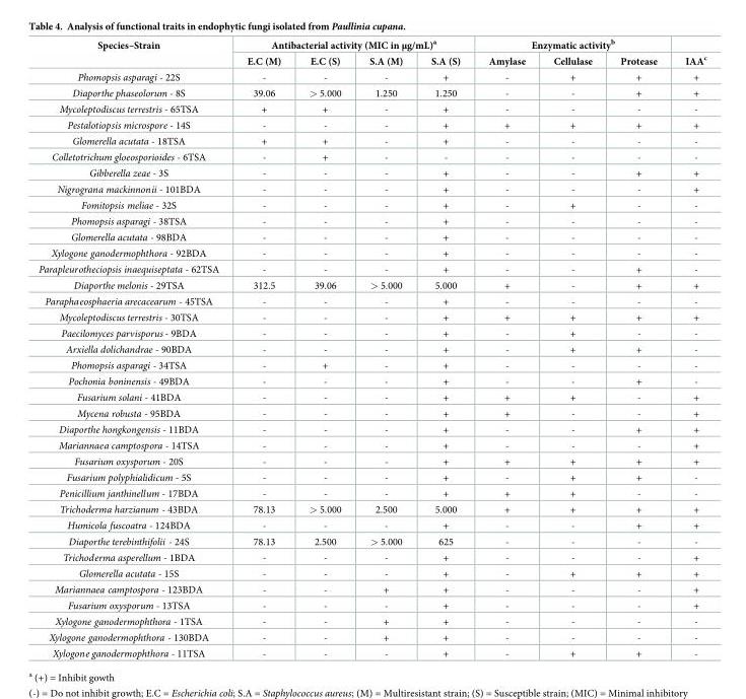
<table><thead><tr><td rowspan="2">Species–Strain</td><td colspan="4">Antibacterial activity (MIC in μg/mL)<sup>a</sup></td><td colspan="3">Enzymatic activity<sup>b</sup></td><td rowspan="2">IAA<sup>c</sup></td></tr><tr><td>E.C (M)</td><td>E.C (S)</td><td>S.A (M)</td><td>S.A (S)</td><td>Amylase</td><td>Cellulase</td><td>Protease</td></tr></thead><tbody><tr><td>Phomopsis asparagi - 22S</td><td>-</td><td>-</td><td>-</td><td>+</td><td>-</td><td>+</td><td>+</td><td>+</td></tr><tr><td>Diaporthe phaseolorum - 8S</td><td>39.06</td><td>&gt; 5.000</td><td>1.250</td><td>1.250</td><td>-</td><td>-</td><td>+</td><td>+</td></tr><tr><td>Mycoleptodiscus terrestris - 65TSA</td><td>+</td><td>+</td><td>-</td><td>+</td><td>-</td><td>-</td><td>-</td><td>-</td></tr><tr><td>Pestalotiopsis microspore - 14S</td><td>-</td><td>-</td><td>-</td><td>+</td><td>+</td><td>+</td><td>+</td><td>+</td></tr><tr><td>Glomerella acutata - 18TSA</td><td>+</td><td>+</td><td>-</td><td>+</td><td>-</td><td>-</td><td>-</td><td>-</td></tr><tr><td>Colletotrichum gloeosporioides - 6TSA</td><td>-</td><td>+</td><td>-</td><td>-</td><td>-</td><td>-</td><td>-</td><td>-</td></tr><tr><td>Gibberella zeae - 3S</td><td>-</td><td>-</td><td>-</td><td>+</td><td>-</td><td>-</td><td>+</td><td>+</td></tr><tr><td>Nigrograna mackinnonii - 101BDA</td><td>-</td><td>-</td><td>-</td><td>+</td><td>-</td><td>-</td><td>-</td><td>+</td></tr><tr><td>Fomitopsis meliae - 32S</td><td>-</td><td>-</td><td>-</td><td>+</td><td>-</td><td>+</td><td>-</td><td>-</td></tr><tr><td>Phomopsis asparagi - 38TSA</td><td>-</td><td>-</td><td>-</td><td>+</td><td>-</td><td>-</td><td>-</td><td>-</td></tr><tr><td>Glomerella acutata - 98BDA</td><td>-</td><td>-</td><td>-</td><td>+</td><td>-</td><td>-</td><td>-</td><td>-</td></tr><tr><td>Xylogone ganodermophthora - 92BDA</td><td>-</td><td>-</td><td>-</td><td>+</td><td>-</td><td>-</td><td>-</td><td>-</td></tr><tr><td>Parapleurotheciopsis inaequiseptata - 62TSA</td><td>-</td><td>-</td><td>-</td><td>+</td><td>-</td><td>-</td><td>+</td><td>-</td></tr><tr><td>Diaporthe melonis - 29TSA</td><td>312.5</td><td>39.06</td><td>&gt; 5.000</td><td>5.000</td><td>+</td><td>-</td><td>+</td><td>+</td></tr><tr><td>Paraphaeosphaeria arecacearum - 45TSA</td><td>-</td><td>-</td><td>-</td><td>+</td><td>-</td><td>-</td><td>-</td><td>-</td></tr><tr><td>Mycoleptodiscus terrestris - 30TSA</td><td>-</td><td>-</td><td>-</td><td>+</td><td>+</td><td>+</td><td>+</td><td>+</td></tr><tr><td>Paecilomyces parvisporus - 9BDA</td><td>-</td><td>-</td><td>-</td><td>+</td><td>-</td><td>+</td><td>-</td><td>-</td></tr><tr><td>Arxiella dolichandrae - 90BDA</td><td>-</td><td>-</td><td>-</td><td>+</td><td>-</td><td>+</td><td>+</td><td>-</td></tr><tr><td>Phomopsis asparagi - 34TSA</td><td>-</td><td>+</td><td>-</td><td>+</td><td>-</td><td>-</td><td>-</td><td>-</td></tr><tr><td>Pochonia boninensis - 49BDA</td><td>-</td><td>-</td><td>-</td><td>+</td><td>-</td><td>-</td><td>+</td><td>-</td></tr><tr><td>Fusarium solani - 41BDA</td><td>-</td><td>-</td><td>-</td><td>+</td><td>+</td><td>+</td><td>-</td><td>+</td></tr><tr><td>Mycena robusta - 95BDA</td><td>-</td><td>-</td><td>-</td><td>+</td><td>+</td><td>-</td><td>-</td><td>+</td></tr><tr><td>Diaporthe hongkongensis - 11BDA</td><td>-</td><td>-</td><td>-</td><td>+</td><td>-</td><td>-</td><td>+</td><td>+</td></tr><tr><td>Mariannaea camptospora - 14TSA</td><td>-</td><td>-</td><td>-</td><td>+</td><td>-</td><td>-</td><td>-</td><td>+</td></tr><tr><td>Fusarium oxysporum - 20S</td><td>-</td><td>-</td><td>-</td><td>+</td><td>+</td><td>+</td><td>+</td><td>+</td></tr><tr><td>Fusarium polyphialidicum - 5S</td><td>-</td><td>-</td><td>-</td><td>+</td><td>-</td><td>+</td><td>+</td><td>-</td></tr><tr><td>Penicillium janthinellum - 17BDA</td><td>-</td><td>-</td><td>-</td><td>+</td><td>+</td><td>+</td><td>-</td><td>-</td></tr><tr><td>Trichoderma harzianum - 43BDA</td><td>78.13</td><td>&gt; 5.000</td><td>2.500</td><td>5.000</td><td>+</td><td>+</td><td>+</td><td>+</td></tr><tr><td>Humicola fuscoatra - 124BDA</td><td>-</td><td>-</td><td>-</td><td>+</td><td>-</td><td>-</td><td>+</td><td>+</td></tr><tr><td>Diaporthe terebinthifolii - 24S</td><td>78.13</td><td>2.500</td><td>&gt; 5.000</td><td>625</td><td>-</td><td>-</td><td>-</td><td>-</td></tr><tr><td>Trichoderma asperellum - 1BDA</td><td>-</td><td>-</td><td>-</td><td>+</td><td>-</td><td>-</td><td>-</td><td>+</td></tr><tr><td>Glomerella acutata - 15S</td><td>-</td><td>-</td><td>-</td><td>+</td><td>-</td><td>+</td><td>+</td><td>+</td></tr><tr><td>Mariannaea camptospora - 123BDA</td><td>-</td><td>-</td><td>+</td><td>+</td><td>-</td><td>-</td><td>-</td><td>+</td></tr><tr><td>Fusarium oxysporum - 13TSA</td><td>-</td><td>-</td><td>-</td><td>+</td><td>-</td><td>-</td><td>-</td><td>+</td></tr><tr><td>Xylogone ganodermophthora - 1TSA</td><td>-</td><td>-</td><td>+</td><td>+</td><td>-</td><td>-</td><td>-</td><td>-</td></tr><tr><td>Xylogone ganodermophthora - 130BDA</td><td>-</td><td>-</td><td>+</td><td>+</td><td>-</td><td>-</td><td>-</td><td>-</td></tr><tr><td>Xylogone ganodermophthora - 11TSA</td><td>-</td><td>-</td><td>-</td><td>+</td><td>-</td><td>+</td><td>+</td><td>-</td></tr></tbody></table>